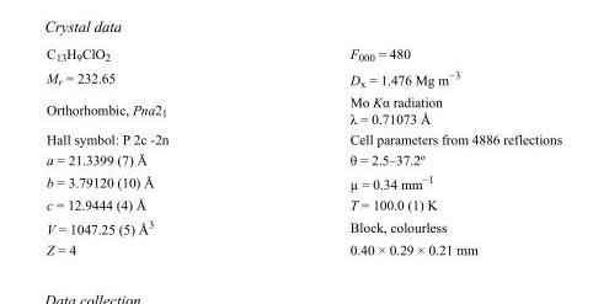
<table><tbody><tr><td>C<sub>13</sub>H<sub>9</sub>ClO<sub>2</sub></td><td>F<sub>000</sub> = 480</td></tr><tr><td>M<sub>r</sub> = 232.65</td><td>D<sub>x</sub> = 1.476 Mg m<sup>−3</sup></td></tr><tr><td>Orthorhombic, Pna2<sub>1</sub></td><td>Mo Kα radiation λ = 0.71073 Å</td></tr><tr><td>Hall symbol: P 2c -2n</td><td>Cell parameters from 4886 reflections</td></tr><tr><td>a = 21.3399 (7) Å</td><td>θ = 2.5–37.2º</td></tr><tr><td>b = 3.79120 (10) Å</td><td>µ = 0.34 mm<sup>−1</sup></td></tr><tr><td>c = 12.9444 (4) Å</td><td>T = 100.0 (1) K</td></tr><tr><td>V = 1047.25 (5) Å<sup>3</sup></td><td>Block, colourless</td></tr><tr><td>Z = 4</td><td>0.40 × 0.29 × 0.21 mm</td></tr></tbody></table>